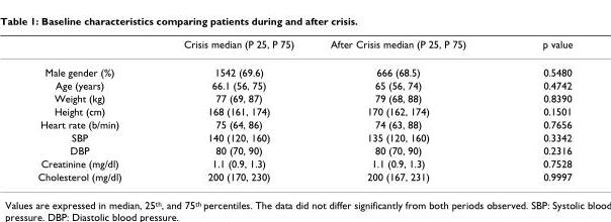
<table><thead><tr><td></td><td>Crisis median (P 25, P 75)</td><td>After Crisis median (P 25, P 75)</td><td>p value</td></tr></thead><tbody><tr><td>Male gender (%)</td><td>1542 (69.6)</td><td>666 (68.5)</td><td>0.5480</td></tr><tr><td>Age (years)</td><td>66.1 (56, 75)</td><td>65 (56, 74)</td><td>0.4742</td></tr><tr><td>Weight (kg)</td><td>77 (69, 87)</td><td>79 (68, 88)</td><td>0.8390</td></tr><tr><td>Height (cm)</td><td>168 (161, 174)</td><td>170 (162, 174)</td><td>0.1501</td></tr><tr><td>Heart rate (b/min)</td><td>75 (64, 86)</td><td>74 (63, 88)</td><td>0.7656</td></tr><tr><td>SBP</td><td>140 (120, 160)</td><td>135 (120, 160)</td><td>0.3342</td></tr><tr><td>DBP</td><td>80 (70, 90)</td><td>80 (70, 90)</td><td>0.2316</td></tr><tr><td>Creatinine (mg/dl)</td><td>1.1 (0.9, 1.3)</td><td>1.1 (0.9, 1.3)</td><td>0.7528</td></tr><tr><td>Cholesterol (mg/dl)</td><td>200 (170, 230)</td><td>200 (167, 231)</td><td>0.9997</td></tr></tbody></table>